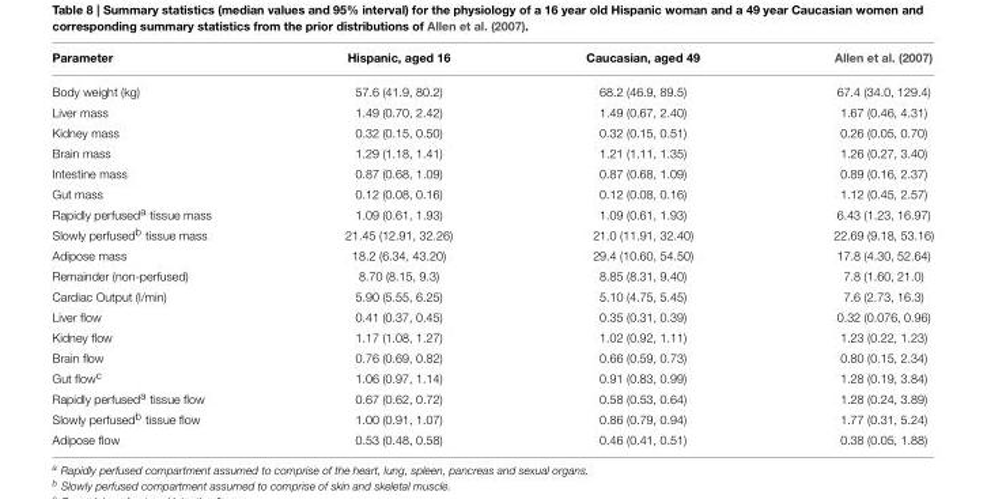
<table><thead><tr><td>Parameter</td><td>Hispanic, aged 16</td><td>Caucasian, aged 49</td><td>Allen et al. (2007)</td></tr></thead><tbody><tr><td>Body weight (kg)</td><td>57.6 (41.9, 80.2)</td><td>68.2 (46.9, 89.5)</td><td>67.4 (34.0, 129.4)</td></tr><tr><td>Liver mass</td><td>1.49 (0.70, 2.42)</td><td>1.49 (0.67, 2.40)</td><td>1.67 (0.46, 4.31)</td></tr><tr><td>Kidney mass</td><td>0.32 (0.15, 0.50)</td><td>0.32 (0.15, 0.51)</td><td>0.26 (0.05, 0.70)</td></tr><tr><td>Brain mass</td><td>1.29 (1.18, 1.41)</td><td>1.21 (1.11, 1.35)</td><td>1.26 (0.27, 3.40)</td></tr><tr><td>Intestine mass</td><td>0.87 (0.68, 1.09)</td><td>0.87 (0.68, 1.09)</td><td>0.89 (0.16, 2.37)</td></tr><tr><td>Gut mass</td><td>0.12 (0.08, 0.16)</td><td>0.12 (0.08, 0.16)</td><td>1.12 (0.45, 2.57)</td></tr><tr><td>Rapidly perfused<sup>a</sup> tissue mass</td><td>1.09 (0.61, 1.93)</td><td>1.09 (0.61, 1.93)</td><td>6.43 (1.23, 16.97)</td></tr><tr><td>Slowly perfused<sup>b</sup> tissue mass</td><td>21.45 (12.91, 32.26)</td><td>21.0 (11.91, 32.40)</td><td>22.69 (9.18, 53.16)</td></tr><tr><td>Adipose mass</td><td>18.2 (6.34, 43.20)</td><td>29.4 (10.60, 54.50)</td><td>17.8 (4.30, 52.64)</td></tr><tr><td>Remainder (non-perfused)</td><td>8.70 (8.15, 9.3)</td><td>8.85 (8.31, 9.40)</td><td>7.8 (1.60, 21.0)</td></tr><tr><td>Cardiac Output (l/min)</td><td>5.90 (5.55, 6.25)</td><td>5.10 (4.75, 5.45)</td><td>7.6 (2.73, 16.3)</td></tr><tr><td>Liver flow</td><td>0.41 (0.37, 0.45)</td><td>0.35 (0.31, 0.39)</td><td>0.32 (0.076, 0.96)</td></tr><tr><td>Kidney flow</td><td>1.17 (1.08, 1.27)</td><td>1.02 (0.92, 1.11)</td><td>1.23 (0.22, 1.23)</td></tr><tr><td>Brain flow</td><td>0.76 (0.69, 0.82)</td><td>0.66 (0.59, 0.73)</td><td>0.80 (0.15, 2.34)</td></tr><tr><td>Gut flow<sup>c</sup></td><td>1.06 (0.97, 1.14)</td><td>0.91 (0.83, 0.99)</td><td>1.28 (0.19, 3.84)</td></tr><tr><td>Rapidly perfused<sup>a</sup> tissue flow</td><td>0.67 (0.62, 0.72)</td><td>0.58 (0.53, 0.64)</td><td>1.28 (0.24, 3.89)</td></tr><tr><td>Slowly perfused<sup>b</sup> tissue flow</td><td>1.00 (0.91, 1.07)</td><td>0.86 (0.79, 0.94)</td><td>1.77 (0.31, 5.24)</td></tr><tr><td>Adipose flow</td><td>0.53 (0.48, 0.58)</td><td>0.46 (0.41, 0.51)</td><td>0.38 (0.05, 1.88)</td></tr></tbody></table>